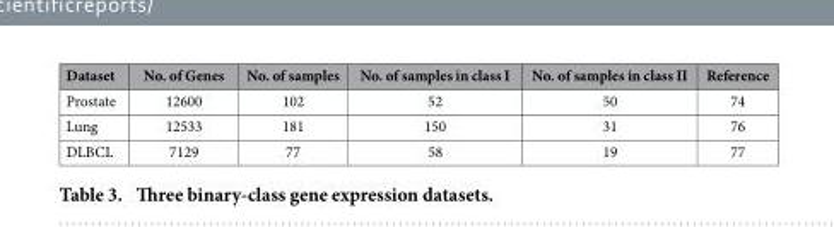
<table><thead><tr><td>Dataset</td><td>No. of Genes</td><td>No. of samples</td><td>No. of samples in class I</td><td>No. of samples in class II</td><td>Reference</td></tr></thead><tbody><tr><td>Prostate</td><td>12600</td><td>102</td><td>52</td><td>50</td><td>74</td></tr><tr><td>Lung</td><td>12533</td><td>181</td><td>150</td><td>31</td><td>76</td></tr><tr><td>DLBCL</td><td>7129</td><td>77</td><td>58</td><td>19</td><td>77</td></tr></tbody></table>